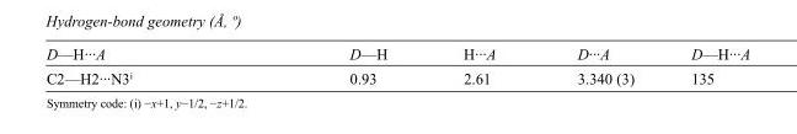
<table><tbody><tr><td>D—H···A</td><td>D—H</td><td>H···A</td><td>D···A</td><td>D—H···A</td></tr><tr><td>C2—H2···N3<sup>i</sup></td><td>0.93</td><td>2.61</td><td>3.340 (3)</td><td>135</td></tr></tbody></table>